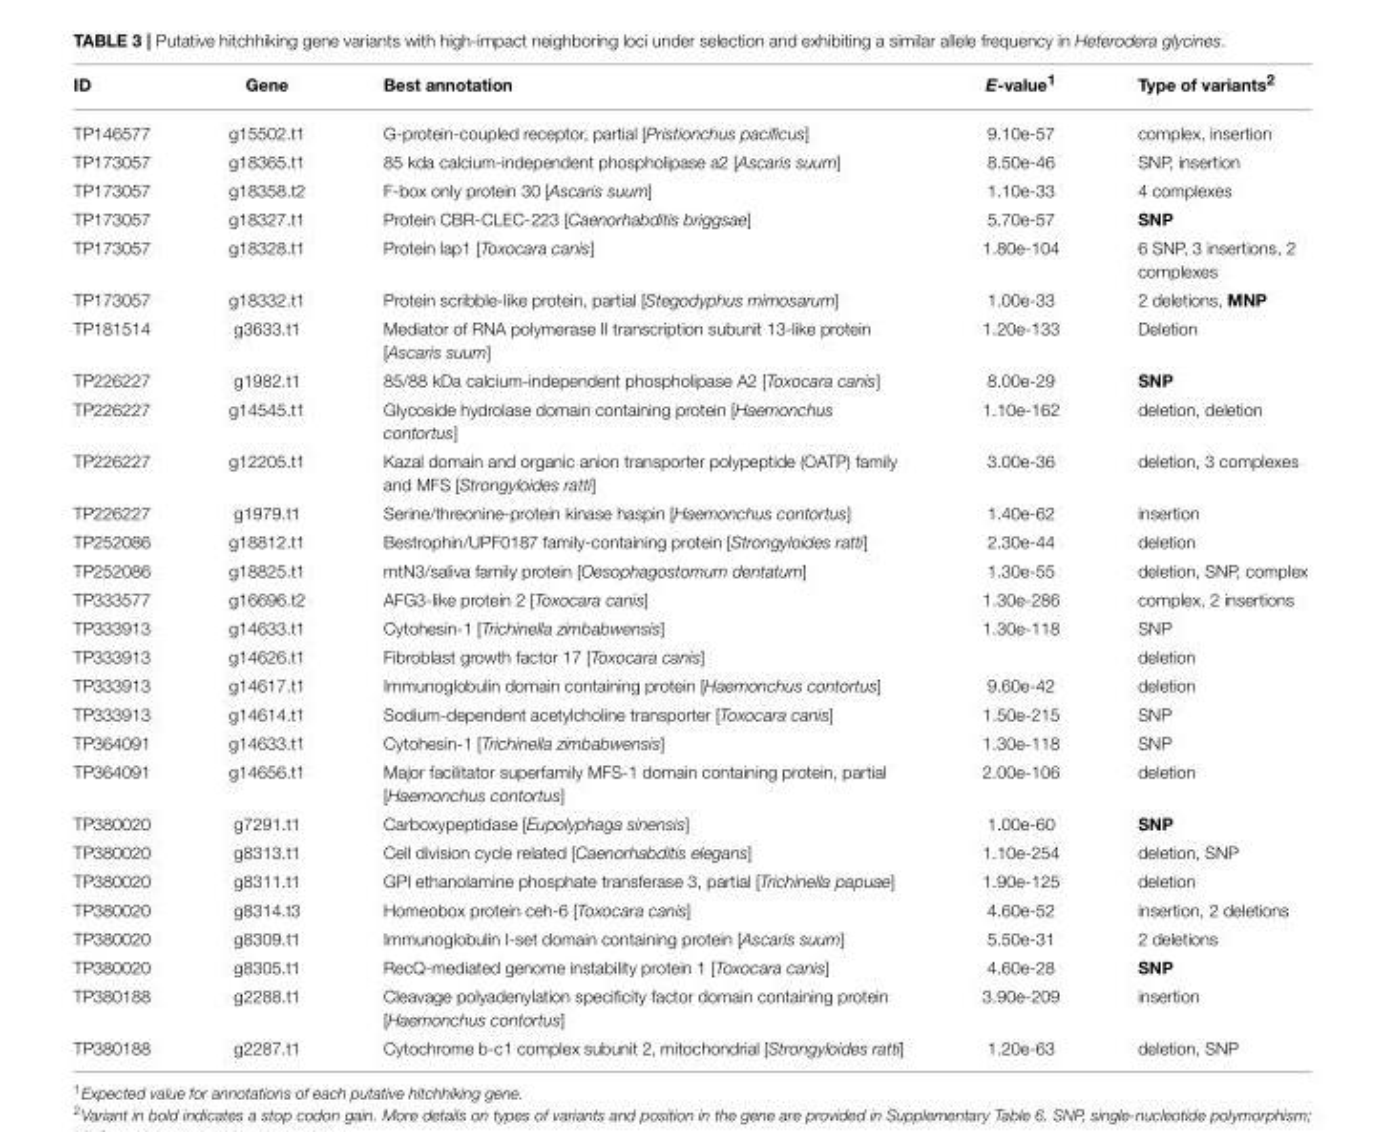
<table><thead><tr><td>ID</td><td>Gene</td><td>Best annotation</td><td>E-value<sup>1</sup></td><td>Type of variants<sup>2</sup></td></tr></thead><tbody><tr><td>TP146577</td><td>g15502.t1</td><td>G-protein-coupled receptor, partial [Pristionchus pacificus]</td><td>9.10e-57</td><td>complex, insertion</td></tr><tr><td>TP173057</td><td>g18365.t1</td><td>85 kda calcium-independent phospholipase a2 [Ascaris suum]</td><td>8.50e-46</td><td>SNP, insertion</td></tr><tr><td>TP173057</td><td>g18358.t2</td><td>F-box only protein 30 [Ascaris suum]</td><td>1.10e-33</td><td>4 complexes</td></tr><tr><td>TP173057</td><td>g18327.t1</td><td>Protein CBR-CLEC-223 [Caenorhabditis briggsae]</td><td>5.70e-57</td><td>SNP</td></tr><tr><td>TP173057</td><td>g18328.t1</td><td>Protein lap1 [Toxocara canis]</td><td>1.80e-104</td><td>6 SNP, 3 insertions, 2 complexes</td></tr><tr><td>TP173057</td><td>g18332.t1</td><td>Protein scribble-like protein, partial [Stegodyphus mimosarum]</td><td>1.00e-33</td><td>2 deletions, MNP</td></tr><tr><td>TP181514</td><td>g3633.t1</td><td>Mediator of RNA polymerase II transcription subunit 13-like protein [Ascaris suum]</td><td>1.20e-133</td><td>Deletion</td></tr><tr><td>TP226227</td><td>g1982.t1</td><td>85/88 kDa calcium-independent phospholipase A2 [Toxocara canis]</td><td>8.00e-29</td><td>SNP</td></tr><tr><td>TP226227</td><td>g14545.t1</td><td>Glycoside hydrolase domain containing protein [Haemonchus contortus]</td><td>1.10e-162</td><td>deletion, deletion</td></tr><tr><td>TP226227</td><td>g12205.t1</td><td>Kazal domain and organic anion transporter polypeptide (OATP) family and MFS [Strongyloides ratti]</td><td>3.00e-36</td><td>deletion, 3 complexes</td></tr><tr><td>TP226227</td><td>g1979.t1</td><td>Serine/threonine-protein kinase haspin [Haemonchus contortus]</td><td>1.40e-62</td><td>insertion</td></tr><tr><td>TP252086</td><td>g18812.t1</td><td>Bestrophin/UPF0187 family-containing protein [Strongyloides ratti]</td><td>2.30e-44</td><td>deletion</td></tr><tr><td>TP252086</td><td>g18825.t1</td><td>mtN3/saliva family protein [Oesophagostomum dentatum]</td><td>1.30e-55</td><td>deletion, SNP, complex</td></tr><tr><td>TP333577</td><td>g16696.t2</td><td>AFG3-like protein 2 [Toxocara canis]</td><td>1.30e-286</td><td>complex, 2 insertions</td></tr><tr><td>TP333913</td><td>g14633.t1</td><td>Cytohesin-1 [Trichinella zimbabwensis]</td><td>1.30e-118</td><td>SNP</td></tr><tr><td>TP333913</td><td>g14626.t1</td><td>Fibroblast growth factor 17 [Toxocara canis]</td><td></td><td>deletion</td></tr><tr><td>TP333913</td><td>g14617.t1</td><td>Immunoglobulin domain containing protein [Haemonchus contortus]</td><td>9.60e-42</td><td>deletion</td></tr><tr><td>TP333913</td><td>g14614.t1</td><td>Sodium-dependent acetylcholine transporter [Toxocara canis]</td><td>1.50e-215</td><td>SNP</td></tr><tr><td>TP364091</td><td>g14633.t1</td><td>Cytohesin-1 [Trichinella zimbabwensis]</td><td>1.30e-118</td><td>SNP</td></tr><tr><td>TP364091</td><td>g14656.t1</td><td>Major facilitator superfamily MFS-1 domain containing protein, partial [Haemonchus contortus]</td><td>2.00e-106</td><td>deletion</td></tr><tr><td>TP380020</td><td>g7291.t1</td><td>Carboxypeptidase [Eupolyphaga sinensis]</td><td>1.00e-60</td><td>SNP</td></tr><tr><td>TP380020</td><td>g8313.t1</td><td>Cell division cycle related [Caenorhabditis elegans]</td><td>1.10e-254</td><td>deletion, SNP</td></tr><tr><td>TP380020</td><td>g8311.t1</td><td>GPI ethanolamine phosphate transferase 3, partial [Trichinella papuae]</td><td>1.90e-125</td><td>deletion</td></tr><tr><td>TP380020</td><td>g8314.t3</td><td>Homeobox protein ceh-6 [Toxocara canis]</td><td>4.60e-52</td><td>insertion, 2 deletions</td></tr><tr><td>TP380020</td><td>g8309.t1</td><td>Immunoglobulin I-set domain containing protein [Ascaris suum]</td><td>5.50e-31</td><td>2 deletions</td></tr><tr><td>TP380020</td><td>g8305.t1</td><td>RecQ-mediated genome instability protein 1 [Toxocara canis]</td><td>4.60e-28</td><td>SNP</td></tr><tr><td>TP380188</td><td>g2288.t1</td><td>Cleavage polyadenylation specificity factor domain containing protein [Haemonchus contortus]</td><td>3.90e-209</td><td>insertion</td></tr><tr><td>TP380188</td><td>g2287.t1</td><td>Cytochrome b-c1 complex subunit 2, mitochondrial [Strongyloides ratti]</td><td>1.20e-63</td><td>deletion, SNP</td></tr></tbody></table>